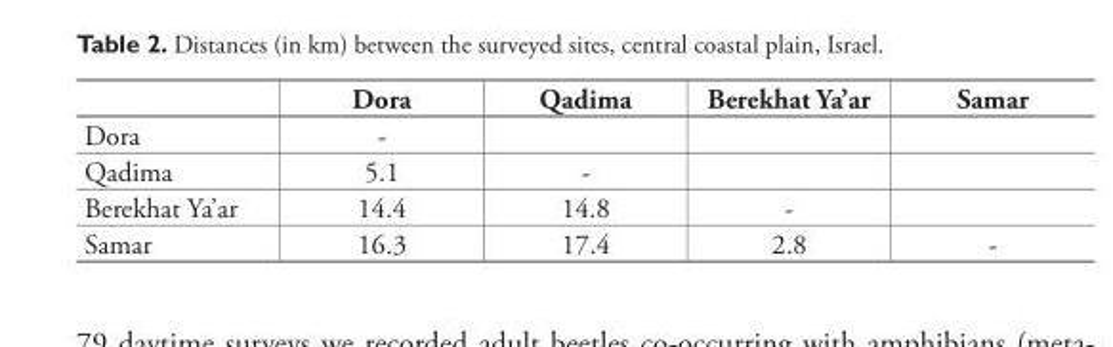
<table><thead><tr><td></td><td>Dora</td><td>Qadima</td><td>Berekhat Ya’ar</td><td>Samar</td></tr></thead><tbody><tr><td>Dora</td><td>-</td><td></td><td></td><td></td></tr><tr><td>Qadima</td><td>5.1</td><td>-</td><td></td><td></td></tr><tr><td>Berekhat Ya’ar</td><td>14.4</td><td>14.8</td><td>-</td><td></td></tr><tr><td>Samar</td><td>16.3</td><td>17.4</td><td>2.8</td><td>-</td></tr></tbody></table>